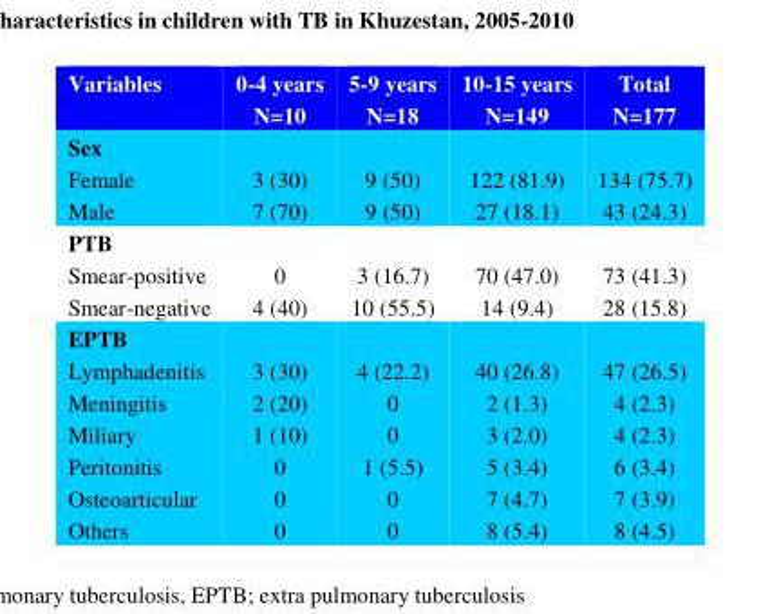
<table><thead><tr><td>Variables</td><td>0-4 years N=10</td><td>5-9 years N=18</td><td>10-15 years N=149</td><td>Total N=177</td></tr></thead><tbody><tr><td>Sex Female Male</td><td>3 (30) 7 (70)</td><td>9 (50) 9 (50)</td><td>122 (81.9) 27 (18.1)</td><td>134 (75.7) 43 (24.3)</td></tr><tr><td>PTB Smear-positive Smear-negative</td><td>0 4 (40)</td><td>3 (16.7) 10 (55.5)</td><td>70 (47.0) 14 (9.4)</td><td>73 (41.3) 28 (15.8)</td></tr><tr><td>EPTB Lymphadenitis Meningitis Miliary Peritonitis Osteoarticular Others</td><td>3 (30) 2 (20) 1 (10) 0 0 0</td><td>4 (22.2) 0 0 1 (5.5) 0 0</td><td>40 (26.8) 2 (1.3) 3 (2.0) 5 (3.4) 7 (4.7) 8 (5.4)</td><td>47 (26.5) 4 (2.3) 4 (2.3) 6 (3.4) 7 (3.9) 8 (4.5)</td></tr></tbody></table>